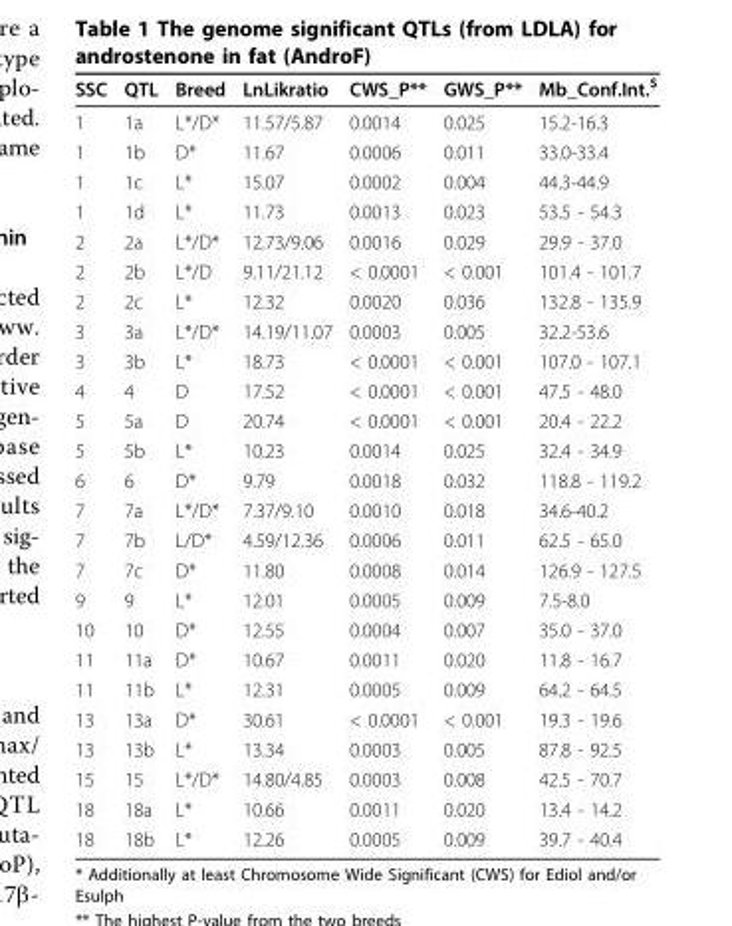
<table><thead><tr><td>SSC</td><td>QTL</td><td>Breed</td><td>LnLikratio</td><td>CWS_P**</td><td>GWS_P**</td><td>Mb_Conf.Int.<sup>$</sup></td></tr></thead><tbody><tr><td>1</td><td>1a</td><td>L*/D*</td><td>11.57/5.87</td><td>0.0014</td><td>0.025</td><td>15.2-16.3</td></tr><tr><td>1</td><td>1b</td><td>D*</td><td>11.67</td><td>0.0006</td><td>0.011</td><td>33.0-33.4</td></tr><tr><td>1</td><td>1c</td><td>L*</td><td>15.07</td><td>0.0002</td><td>0.004</td><td>44.3-44.9</td></tr><tr><td>1</td><td>1d</td><td>L*</td><td>11.73</td><td>0.0013</td><td>0.023</td><td>53.5 - 54.3</td></tr><tr><td>2</td><td>2a</td><td>L*/D*</td><td>12.73/9.06</td><td>0.0016</td><td>0.029</td><td>29.9 - 37.0</td></tr><tr><td>2</td><td>2b</td><td>L*/D</td><td>9.11/21.12</td><td>&lt; 0.0001</td><td>&lt; 0.001</td><td>101.4 - 101.7</td></tr><tr><td>2</td><td>2c</td><td>L*</td><td>12.32</td><td>0.0020</td><td>0.036</td><td>132.8 - 135.9</td></tr><tr><td>3</td><td>3a</td><td>L*/D*</td><td>14.19/11.07</td><td>0.0003</td><td>0.005</td><td>32.2-53.6</td></tr><tr><td>3</td><td>3b</td><td>L*</td><td>18.73</td><td>&lt; 0.0001</td><td>&lt; 0.001</td><td>107.0 - 107.1</td></tr><tr><td>4</td><td>4</td><td>D</td><td>17.52</td><td>&lt; 0.0001</td><td>&lt; 0.001</td><td>47.5 - 48.0</td></tr><tr><td>5</td><td>5a</td><td>D</td><td>20.74</td><td>&lt; 0.0001</td><td>&lt; 0.001</td><td>20.4 - 22.2</td></tr><tr><td>5</td><td>5b</td><td>L*</td><td>10.23</td><td>0.0014</td><td>0.025</td><td>32.4 - 34.9</td></tr><tr><td>6</td><td>6</td><td>D*</td><td>9.79</td><td>0.0018</td><td>0.032</td><td>118.8 - 119.2</td></tr><tr><td>7</td><td>7a</td><td>L*/D*</td><td>7.37/9.10</td><td>0.0010</td><td>0.018</td><td>34.6-40.2</td></tr><tr><td>7</td><td>7b</td><td>L/D*</td><td>4.59/12.36</td><td>0.0006</td><td>0.011</td><td>62.5 - 65.0</td></tr><tr><td>7</td><td>7c</td><td>D*</td><td>11.80</td><td>0.0008</td><td>0.014</td><td>126.9 - 127.5</td></tr><tr><td>9</td><td>9</td><td>L*</td><td>12.01</td><td>0.0005</td><td>0.009</td><td>7.5-8.0</td></tr><tr><td>10</td><td>10</td><td>D*</td><td>12.55</td><td>0.0004</td><td>0.007</td><td>35.0 - 37.0</td></tr><tr><td>11</td><td>11a</td><td>D*</td><td>10.67</td><td>0.0011</td><td>0.020</td><td>11.8 - 16.7</td></tr><tr><td>11</td><td>11b</td><td>L*</td><td>12.31</td><td>0.0005</td><td>0.009</td><td>64.2 - 64.5</td></tr><tr><td>13</td><td>13a</td><td>D*</td><td>30.61</td><td>&lt; 0.0001</td><td>&lt; 0.001</td><td>19.3 - 19.6</td></tr><tr><td>13</td><td>13b</td><td>L*</td><td>13.34</td><td>0.0003</td><td>0.005</td><td>87.8 - 92.5</td></tr><tr><td>15</td><td>15</td><td>L*/D*</td><td>14.80/4.85</td><td>0.0003</td><td>0.008</td><td>42.5 - 70.7</td></tr><tr><td>18</td><td>18a</td><td>L*</td><td>10.66</td><td>0.0011</td><td>0.020</td><td>13.4 - 14.2</td></tr><tr><td>18</td><td>18b</td><td>L*</td><td>12.26</td><td>0.0005</td><td>0.009</td><td>39.7 - 40.4</td></tr></tbody></table>